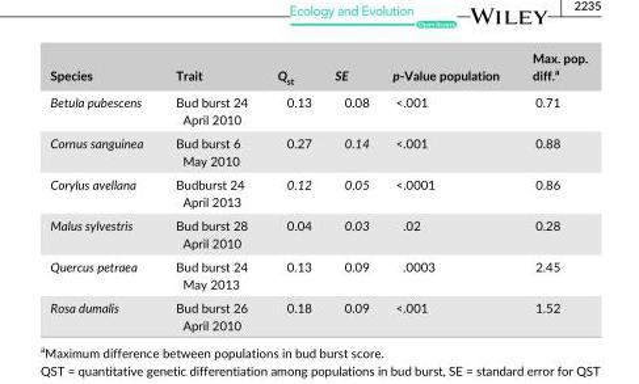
<table><thead><tr><td>Species</td><td>Trait</td><td>Q<sub>st</sub></td><td>SE</td><td>p- Value population</td><td>Max. pop. diff.<sup>a</sup></td></tr></thead><tbody><tr><td>Betula pubescens</td><td>Bud burst 24 April 2010</td><td>0.13</td><td>0.08</td><td>&lt;.001</td><td>0.71</td></tr><tr><td>Cornus sanguinea</td><td>Bud burst 6 May 2010</td><td>0.27</td><td>0.14</td><td>&lt;.001</td><td>0.88</td></tr><tr><td>Corylus avellana</td><td>Budburst 24 April 2013</td><td>0.12</td><td>0.05</td><td>&lt;.0001</td><td>0.86</td></tr><tr><td>Malus sylvestris</td><td>Bud burst 28 April 2010</td><td>0.04</td><td>0.03</td><td>.02</td><td>0.28</td></tr><tr><td>Quercus petraea</td><td>Bud burst 24 May 2013</td><td>0.13</td><td>0.09</td><td>.0003</td><td>2.45</td></tr><tr><td>Rosa dumalis</td><td>Bud burst 26 April 2010</td><td>0.18</td><td>0.09</td><td>&lt;.001</td><td>1.52</td></tr></tbody></table>